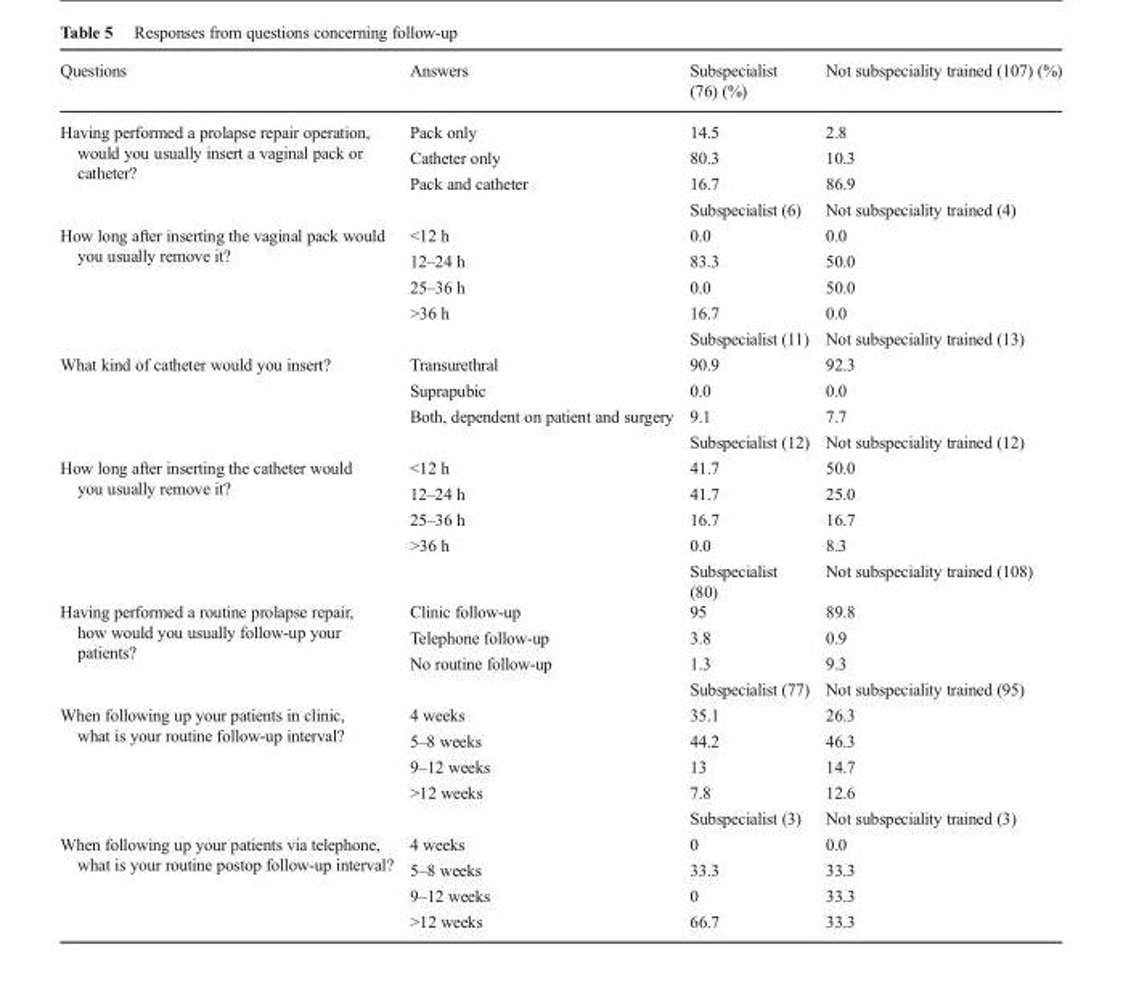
<table><thead><tr><td>Questions</td><td>Answers</td><td>Subspecialist (76) (%)</td><td>Not subspeciality trained (107) (%)</td></tr></thead><tbody><tr><td rowspan="4">Having performed a prolapse repair operation, would you usually insert a vaginal pack or catheter?</td><td>Pack only</td><td>14.5</td><td>2.8</td></tr><tr><td>Catheter only</td><td>80.3</td><td>10.3</td></tr><tr><td>Pack and catheter</td><td>16.7</td><td>86.9</td></tr><tr><td></td><td>Subspecialist (6)</td><td>Not subspeciality trained (4)</td></tr><tr><td rowspan="5">How long after inserting the vaginal pack would you usually remove it?</td><td>&lt;12 h</td><td>0.0</td><td>0.0</td></tr><tr><td>12–24 h</td><td>83.3</td><td>50.0</td></tr><tr><td>25–36 h</td><td>0.0</td><td>50.0</td></tr><tr><td>&gt;36 h</td><td>16.7</td><td>0.0</td></tr><tr><td></td><td>Subspecialist (11)</td><td>Not subspeciality trained (13)</td></tr><tr><td rowspan="4">What kind of catheter would you insert?</td><td>Transurethral</td><td>90.9</td><td>92.3</td></tr><tr><td>Suprapubic</td><td>0.0</td><td>0.0</td></tr><tr><td>Both, dependent on patient and surgery</td><td>9.1</td><td>7.7</td></tr><tr><td></td><td>Subspecialist (12)</td><td>Not subspeciality trained (12)</td></tr><tr><td rowspan="5">How long after inserting the catheter would you usually remove it?</td><td>&lt;12 h</td><td>41.7</td><td>50.0</td></tr><tr><td>12–24 h</td><td>41.7</td><td>25.0</td></tr><tr><td>25–36 h</td><td>16.7</td><td>16.7</td></tr><tr><td>&gt;36 h</td><td>0.0</td><td>8.3</td></tr><tr><td></td><td>Subspecialist (80)</td><td>Not subspeciality trained (108)</td></tr><tr><td rowspan="4">Having performed a routine prolapse repair, how would you usually follow-up your patients?</td><td>Clinic follow-up</td><td>95</td><td>89.8</td></tr><tr><td>Telephone follow-up</td><td>3.8</td><td>0.9</td></tr><tr><td>No routine follow-up</td><td>1.3</td><td>9.3</td></tr><tr><td></td><td>Subspecialist (77)</td><td>Not subspeciality trained (95)</td></tr><tr><td rowspan="5">When following up your patients in clinic, what is your routine follow-up interval?</td><td>4 weeks</td><td>35.1</td><td>26.3</td></tr><tr><td>5–8 weeks</td><td>44.2</td><td>46.3</td></tr><tr><td>9–12 weeks</td><td>13</td><td>14.7</td></tr><tr><td>&gt;12 weeks</td><td>7.8</td><td>12.6</td></tr><tr><td></td><td>Subspecialist (3)</td><td>Not subspeciality trained (3)</td></tr><tr><td rowspan="4">When following up your patients via telephone, what is your routine postop follow-up interval?</td><td>4 weeks</td><td>0</td><td>0.0</td></tr><tr><td>5–8 weeks</td><td>33.3</td><td>33.3</td></tr><tr><td>9–12 weeks</td><td>0</td><td>33.3</td></tr><tr><td>&gt;12 weeks</td><td>66.7</td><td>33.3</td></tr></tbody></table>